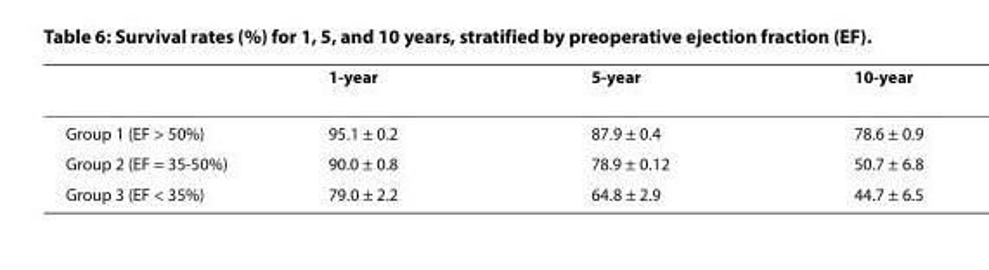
<table><thead><tr><td></td><td>1-year</td><td>5-year</td><td>10-year</td></tr></thead><tbody><tr><td>Group 1 (EF &gt; 50%)</td><td>95.1 ± 0.2</td><td>87.9 ± 0.4</td><td>78.6 ± 0.9</td></tr><tr><td>Group 2 (EF = 35-50%)</td><td>90.0 ± 0.8</td><td>78.9 ± 0.12</td><td>50.7 ± 6.8</td></tr><tr><td>Group 3 (EF &lt; 35%)</td><td>79.0 ± 2.2</td><td>64.8 ± 2.9</td><td>44.7 ± 6.5</td></tr></tbody></table>